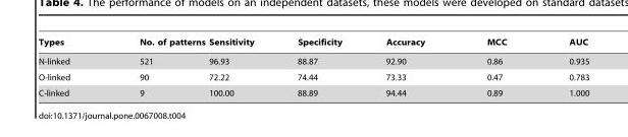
<table><thead><tr><td>Types</td><td>No. of patterns</td><td>Sensitivity</td><td>Specificity</td><td>Accuracy</td><td>MCC</td><td>AUC</td></tr></thead><tbody><tr><td>N-linked</td><td>521</td><td>96.93</td><td>88.87</td><td>92.90</td><td>0.86</td><td>0.935</td></tr><tr><td>O-linked</td><td>90</td><td>72.22</td><td>74.44</td><td>73.33</td><td>0.47</td><td>0.783</td></tr><tr><td>C-linked</td><td>9</td><td>100.00</td><td>88.89</td><td>94.44</td><td>0.89</td><td>1.000</td></tr></tbody></table>